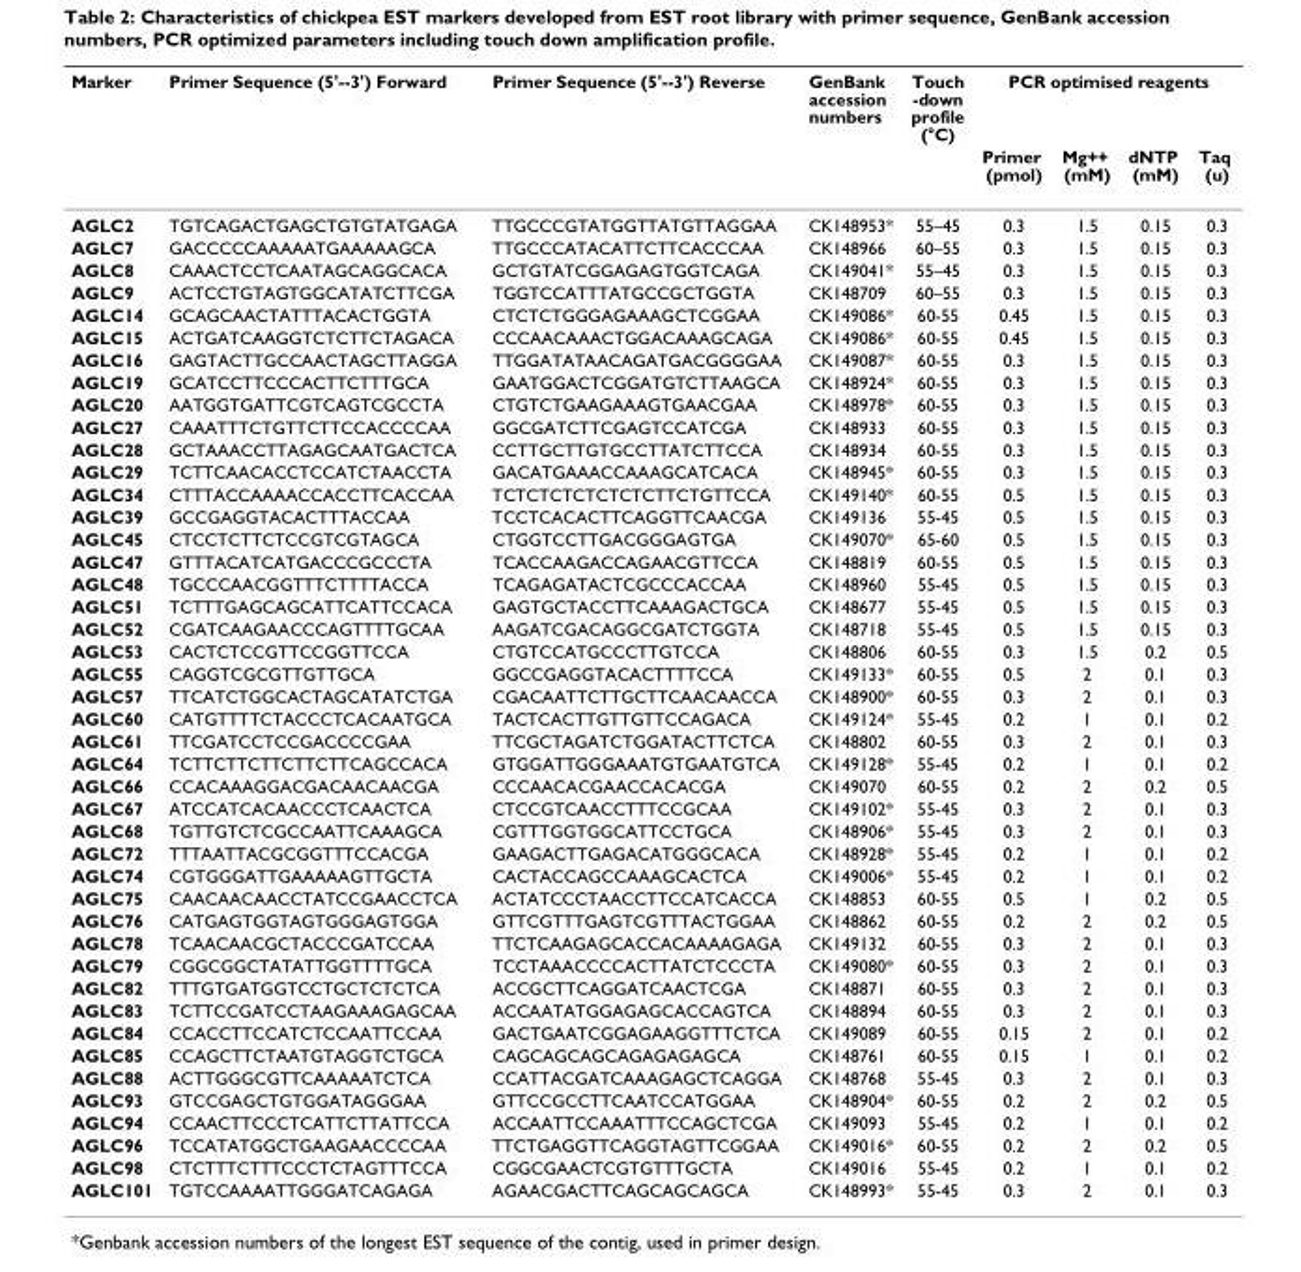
<table><thead><tr><td rowspan="2">Marker</td><td rowspan="2">Primer Sequence (5&#x27;--3&#x27;) Forward</td><td rowspan="2">Primer Sequence (5&#x27;--3&#x27;) Reverse</td><td rowspan="2">GenBank accession numbers</td><td rowspan="2">Touch -down profile (°C)</td><td colspan="4">PCR optimised reagents</td></tr><tr><td>Primer (pmol)</td><td>Mg++ (mM)</td><td>dNTP (mM)</td><td>Taq (u)</td></tr></thead><tbody><tr><td>AGLC2</td><td>TGTCAGACTGAGCTGTGTATGAGA</td><td>TTGCCCGTATGGTTATGTTAGGAA</td><td>CK148953*</td><td>55–45</td><td>0.3</td><td>1.5</td><td>0.15</td><td>0.3</td></tr><tr><td>AGLC7</td><td>GACCCCCAAAAATGAAAAAGCA</td><td>TTGCCCATACATTCTTCACCCAA</td><td>CK148966</td><td>60–55</td><td>0.3</td><td>1.5</td><td>0.15</td><td>0.3</td></tr><tr><td>AGLC8</td><td>CAAACTCCTCAATAGCAGGCACA</td><td>GCTGTATCGGAGAGTGGTCAGA</td><td>CK149041*</td><td>55–45</td><td>0.3</td><td>1.5</td><td>0.15</td><td>0.3</td></tr><tr><td>AGLC9</td><td>ACTCCTGTAGTGGCATATCTTCGA</td><td>TGGTCCATTTATGCCGCTGGTA</td><td>CK148709</td><td>60–55</td><td>0.3</td><td>1.5</td><td>0.15</td><td>0.3</td></tr><tr><td>AGLC14</td><td>GCAGCAACTATTTACACTGGTA</td><td>CTCTCTGGGAGAAAGCTCGGAA</td><td>CK149086*</td><td>60-55</td><td>0.45</td><td>1.5</td><td>0.15</td><td>0.3</td></tr><tr><td>AGLC15</td><td>ACTGATCAAGGTCTCTTCTAGACA</td><td>CCCAACAAACTGGACAAAGCAGA</td><td>CK149086*</td><td>60-55</td><td>0.45</td><td>1.5</td><td>0.15</td><td>0.3</td></tr><tr><td>AGLC16</td><td>GAGTACTTGCCAACTAGCTTAGGA</td><td>TTGGATATAACAGATGACGGGGAA</td><td>CK149087*</td><td>60-55</td><td>0.3</td><td>1.5</td><td>0.15</td><td>0.3</td></tr><tr><td>AGLC19</td><td>GCATCCTTCCCACTTCTTTGCA</td><td>GAATGGACTCGGATGTCTTAAGCA</td><td>CK148924*</td><td>60-55</td><td>0.3</td><td>1.5</td><td>0.15</td><td>0.3</td></tr><tr><td>AGLC20</td><td>AATGGTGATTCGTCAGTCGCCTA</td><td>CTGTCTGAAGAAAGTGAACGAA</td><td>CK148978*</td><td>60-55</td><td>0.3</td><td>1.5</td><td>0.15</td><td>0.3</td></tr><tr><td>AGLC27</td><td>CAAATTTCTGTTCTTCCACCCCAA</td><td>GGCGATCTTCGAGTCCATCGA</td><td>CK148933</td><td>60-55</td><td>0.3</td><td>1.5</td><td>0.15</td><td>0.3</td></tr><tr><td>AGLC28</td><td>GCTAAACCTTAGAGCAATGACTCA</td><td>CCTTGCTTGTGCCTTATCTTCCA</td><td>CK148934</td><td>60-55</td><td>0.3</td><td>1.5</td><td>0.15</td><td>0.3</td></tr><tr><td>AGLC29</td><td>TCTTCAACACCTCCATCTAACCTA</td><td>GACATGAAACCAAAGCATCACA</td><td>CK148945*</td><td>60-55</td><td>0.3</td><td>1.5</td><td>0.15</td><td>0.3</td></tr><tr><td>AGLC34</td><td>CTTTACCAAAACCACCTTCACCAA</td><td>TCTCTCTCTCTCTCTTCTGTTCCA</td><td>CK149140*</td><td>60-55</td><td>0.5</td><td>1.5</td><td>0.15</td><td>0.3</td></tr><tr><td>AGLC39</td><td>GCCGAGGTACACTTTACCAA</td><td>TCCTCACACTTCAGGTTCAACGA</td><td>CK149136</td><td>55-45</td><td>0.5</td><td>1.5</td><td>0.15</td><td>0.3</td></tr><tr><td>AGLC45</td><td>CTCCTCTTCTCCGTCGTAGCA</td><td>CTGGTCCTTGACGGGAGTGA</td><td>CK149070*</td><td>65-60</td><td>0.5</td><td>1.5</td><td>0.15</td><td>0.3</td></tr><tr><td>AGLC47</td><td>GTTTACATCATGACCCGCCCTA</td><td>TCACCAAGACCAGAACGTTCCA</td><td>CK148819</td><td>60-55</td><td>0.5</td><td>1.5</td><td>0.15</td><td>0.3</td></tr><tr><td>AGLC48</td><td>TGCCCAACGGTTTCTTTTACCA</td><td>TCAGAGATACTCGCCCACCAA</td><td>CK148960</td><td>55-45</td><td>0.5</td><td>1.5</td><td>0.15</td><td>0.3</td></tr><tr><td>AGLC51</td><td>TCTTTGAGCAGCATTCATTCCACA</td><td>GAGTGCTACCTTCAAAGACTGCA</td><td>CK148677</td><td>55-45</td><td>0.5</td><td>1.5</td><td>0.15</td><td>0.3</td></tr><tr><td>AGLC52</td><td>CGATCAAGAACCCAGTTTTGCAA</td><td>AAGATCGACAGGCGATCTGGTA</td><td>CK148718</td><td>55-45</td><td>0.5</td><td>1.5</td><td>0.15</td><td>0.3</td></tr><tr><td>AGLC53</td><td>CACTCTCCGTTCCGGTTCCA</td><td>CTGTCCATGCCCTTGTCCA</td><td>CK148806</td><td>60-55</td><td>0.3</td><td>1.5</td><td>0.2</td><td>0.5</td></tr><tr><td>AGLC55</td><td>CAGGTCGCGTTGTTGCA</td><td>GGCCGAGGTACACTTTTCCA</td><td>CK149133*</td><td>60-55</td><td>0.5</td><td>2</td><td>0.1</td><td>0.3</td></tr><tr><td>AGLC57</td><td>TTCATCTGGCACTAGCATATCTGA</td><td>CGACAATTCTTGCTTCAACAACCA</td><td>CK148900*</td><td>60-55</td><td>0.3</td><td>2</td><td>0.1</td><td>0.3</td></tr><tr><td>AGLC60</td><td>CATGTTTTCTACCCTCACAATGCA</td><td>TACTCACTTGTTGTTCCAGACA</td><td>CK149124*</td><td>55-45</td><td>0.2</td><td>1</td><td>0.1</td><td>0.2</td></tr><tr><td>AGLC61</td><td>TTCGATCCTCCGACCCCGAA</td><td>TTCGCTAGATCTGGATACTTCTCA</td><td>CK148802</td><td>60-55</td><td>0.3</td><td>2</td><td>0.1</td><td>0.3</td></tr><tr><td>AGLC64</td><td>TCTTCTTCTTCTTCTTCAGCCACA</td><td>GTGGATTGGGAAATGTGAATGTCA</td><td>CK149128*</td><td>55-45</td><td>0.2</td><td>1</td><td>0.1</td><td>0.2</td></tr><tr><td>AGLC66</td><td>CCACAAAGGACGACAACAACGA</td><td>CCCAACACGAACCACACGA</td><td>CK149070</td><td>60-55</td><td>0.2</td><td>2</td><td>0.2</td><td>0.5</td></tr><tr><td>AGLC67</td><td>ATCCATCACAACCCTCAACTCA</td><td>CTCCGTCAACCTTTCCGCAA</td><td>CK149102*</td><td>55-45</td><td>0.3</td><td>2</td><td>0.1</td><td>0.3</td></tr><tr><td>AGLC68</td><td>TGTTGTCTCGCCAATTCAAAGCA</td><td>CGTTTGGTGGCATTCCTGCA</td><td>CK148906*</td><td>55-45</td><td>0.3</td><td>2</td><td>0.1</td><td>0.3</td></tr><tr><td>AGLC72</td><td>TTTAATTACGCGGTTTCCACGA</td><td>GAAGACTTGAGACATGGGCACA</td><td>CK148928*</td><td>55-45</td><td>0.2</td><td>1</td><td>0.1</td><td>0.2</td></tr><tr><td>AGLC74</td><td>CGTGGGATTGAAAAAGTTGCTA</td><td>CACTACCAGCCAAAGCACTCA</td><td>CK149006*</td><td>55-45</td><td>0.2</td><td>1</td><td>0.1</td><td>0.2</td></tr><tr><td>AGLC75</td><td>CAACAACAACCTATCCGAACCTCA</td><td>ACTATCCCTAACCTTCCATCACCA</td><td>CK148853</td><td>60-55</td><td>0.5</td><td>1</td><td>0.2</td><td>0.5</td></tr><tr><td>AGLC76</td><td>CATGAGTGGTAGTGGGAGTGGA</td><td>GTTCGTTTGAGTCGTTTACTGGAA</td><td>CK148862</td><td>60-55</td><td>0.2</td><td>2</td><td>0.2</td><td>0.5</td></tr><tr><td>AGLC78</td><td>TCAACAACGCTACCCGATCCAA</td><td>TTCTCAAGAGCACCACAAAAGAGA</td><td>CK149132</td><td>60-55</td><td>0.3</td><td>2</td><td>0.1</td><td>0.3</td></tr><tr><td>AGLC79</td><td>CGGCGGCTATATTGGTTTTGCA</td><td>TCCTAAACCCCACTTATCTCCCTA</td><td>CK149080*</td><td>60-55</td><td>0.3</td><td>2</td><td>0.1</td><td>0.3</td></tr><tr><td>AGLC82</td><td>TTTGTGATGGTCCTGCTCTCTCA</td><td>ACCGCTTCAGGATCAACTCGA</td><td>CK148871</td><td>60-55</td><td>0.3</td><td>2</td><td>0.1</td><td>0.3</td></tr><tr><td>AGLC83</td><td>TCTTCCGATCCTAAGAAAGAGCAA</td><td>ACCAATATGGAGAGCACCAGTCA</td><td>CK148894</td><td>60-55</td><td>0.3</td><td>2</td><td>0.1</td><td>0.3</td></tr><tr><td>AGLC84</td><td>CCACCTTCCATCTCCAATTCCAA</td><td>GACTGAATCGGAGAAGGTTTCTCA</td><td>CK149089</td><td>60-55</td><td>0.15</td><td>2</td><td>0.1</td><td>0.2</td></tr><tr><td>AGLC85</td><td>CCAGCTTCTAATGTAGGTCTGCA</td><td>CAGCAGCAGCAGAGAGAGCA</td><td>CK148761</td><td>60-55</td><td>0.15</td><td>1</td><td>0.1</td><td>0.2</td></tr><tr><td>AGLC88</td><td>ACTTGGGCGTTCAAAAATCTCA</td><td>CCATTACGATCAAAGAGCTCAGGA</td><td>CK148768</td><td>55-45</td><td>0.3</td><td>2</td><td>0.1</td><td>0.3</td></tr><tr><td>AGLC93</td><td>GTCCGAGCTGTGGATAGGGAA</td><td>GTTCCGCCTTCAATCCATGGAA</td><td>CK148904*</td><td>60-55</td><td>0.2</td><td>2</td><td>0.2</td><td>0.5</td></tr><tr><td>AGLC94</td><td>CCAACTTCCCTCATTCTTATTCCA</td><td>ACCAATTCCAAATTTCCAGCTCGA</td><td>CK149093</td><td>55-45</td><td>0.2</td><td>1</td><td>0.1</td><td>0.2</td></tr><tr><td>AGLC96</td><td>TCCATATGGCTGAAGAACCCCAA</td><td>TTCTGAGGTTCAGGTAGTTCGGAA</td><td>CK149016*</td><td>60-55</td><td>0.2</td><td>2</td><td>0.2</td><td>0.5</td></tr><tr><td>AGLC98</td><td>CTCTTTCTTTCCCTCTAGTTTCCA</td><td>CGGCGAACTCGTGTTTGCTA</td><td>CK149016</td><td>55-45</td><td>0.2</td><td>1</td><td>0.1</td><td>0.2</td></tr><tr><td>AGLC101</td><td>TGTCCAAAATTGGGATCAGAGA</td><td>AGAACGACTTCAGCAGCAGCA</td><td>CK148993*</td><td>55-45</td><td>0.3</td><td>2</td><td>0.1</td><td>0.3</td></tr></tbody></table>